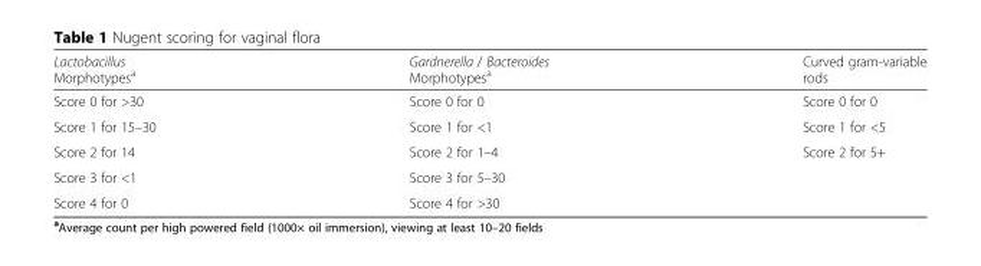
<table><thead><tr><td>Lactobacillus Morphotypes<sup>a</sup></td><td>Gardnerella / Bacteroides Morphotypes<sup>a</sup></td><td>Curved gram-variable rods</td></tr></thead><tbody><tr><td>Score 0 for &gt;30</td><td>Score 0 for 0</td><td>Score 0 for 0</td></tr><tr><td>Score 1 for 15–30</td><td>Score 1 for &lt;1</td><td>Score 1 for &lt;5</td></tr><tr><td>Score 2 for 14</td><td>Score 2 for 1–4</td><td rowspan="3">Score 2 for 5+</td></tr><tr><td>Score 3 for &lt;1</td><td>Score 3 for 5–30</td></tr><tr><td>Score 4 for 0</td><td>Score 4 for &gt;30</td></tr></tbody></table>